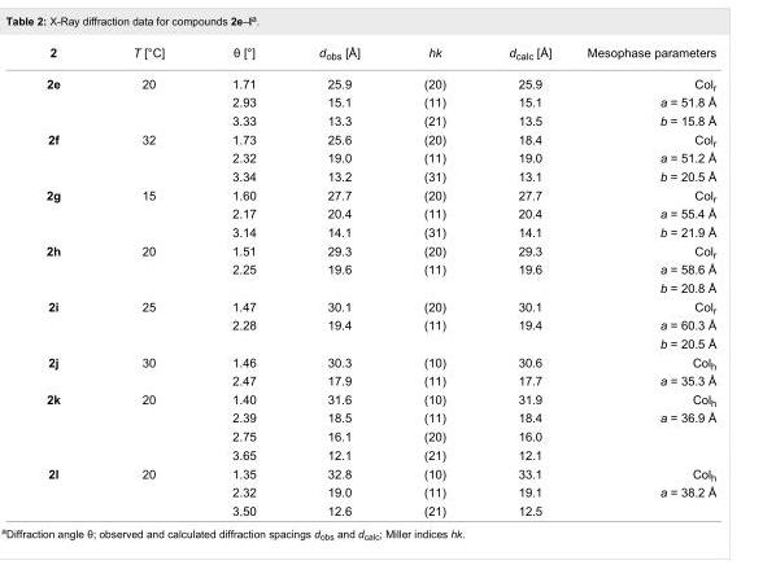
<table><tbody><tr><td>2</td><td>T [°C]</td><td>θ [°]</td><td>d<sub>obs</sub> [Å]</td><td>hk</td><td>d<sub>calc</sub> [Å]</td><td>Mesophase parameters</td></tr><tr><td rowspan="3">2e</td><td>20</td><td>1.71</td><td>25.9</td><td>(20)</td><td>25.9</td><td>Col<sub>r</sub></td></tr><tr><td></td><td>2.93</td><td>15.1</td><td>(11)</td><td>15.1</td><td>a = 51.8 Å</td></tr><tr><td></td><td>3.33</td><td>13.3</td><td>(21)</td><td>13.5</td><td>b = 15.8 Å</td></tr><tr><td rowspan="3">2f</td><td>32</td><td>1.73</td><td>25.6</td><td>(20)</td><td>18.4</td><td>Col<sub>r</sub></td></tr><tr><td></td><td>2.32</td><td>19.0</td><td>(11)</td><td>19.0</td><td>a = 51.2 Å</td></tr><tr><td></td><td>3.34</td><td>13.2</td><td>(31)</td><td>13.1</td><td>b = 20.5 Å</td></tr><tr><td rowspan="3">2g</td><td>15</td><td>1.60</td><td>27.7</td><td>(20)</td><td>27.7</td><td>Col<sub>r</sub></td></tr><tr><td></td><td>2.17</td><td>20.4</td><td>(11)</td><td>20.4</td><td>a = 55.4 Å</td></tr><tr><td></td><td>3.14</td><td>14.1</td><td>(31)</td><td>14.1</td><td>b = 21.9 Å</td></tr><tr><td rowspan="3">2h</td><td>20</td><td>1.51</td><td>29.3</td><td>(20)</td><td>29.3</td><td>Col<sub>r</sub></td></tr><tr><td></td><td>2.25</td><td>19.6</td><td>(11)</td><td>19.6</td><td>a = 58.6 Å</td></tr><tr><td></td><td></td><td></td><td></td><td></td><td>b = 20.8 Å</td></tr><tr><td rowspan="3">2i</td><td>25</td><td>1.47</td><td>30.1</td><td>(20)</td><td>30.1</td><td>Col<sub>r</sub></td></tr><tr><td></td><td>2.28</td><td>19.4</td><td>(11)</td><td>19.4</td><td>a = 60.3 Å</td></tr><tr><td></td><td></td><td></td><td></td><td></td><td>b = 20.5 Å</td></tr><tr><td rowspan="2">2j</td><td>30</td><td>1.46</td><td>30.3</td><td>(10)</td><td>30.6</td><td>Col<sub>h</sub></td></tr><tr><td></td><td>2.47</td><td>17.9</td><td>(11)</td><td>17.7</td><td>a = 35.3 Å</td></tr><tr><td rowspan="4">2k</td><td>20</td><td>1.40</td><td>31.6</td><td>(10)</td><td>31.9</td><td>Col<sub>h</sub></td></tr><tr><td></td><td>2.39</td><td>18.5</td><td>(11)</td><td>18.4</td><td>a = 36.9 Å</td></tr><tr><td></td><td>2.75</td><td>16.1</td><td>(20)</td><td>16.0</td><td></td></tr><tr><td></td><td>3.65</td><td>12.1</td><td>(21)</td><td>12.1</td><td></td></tr><tr><td rowspan="3">2l</td><td>20</td><td>1.35</td><td>32.8</td><td>(10)</td><td>33.1</td><td>Col<sub>h</sub></td></tr><tr><td></td><td>2.32</td><td>19.0</td><td>(11)</td><td>19.1</td><td>a = 38.2 Å</td></tr><tr><td></td><td>3.50</td><td>12.6</td><td>(21)</td><td>12.5</td><td></td></tr></tbody></table>